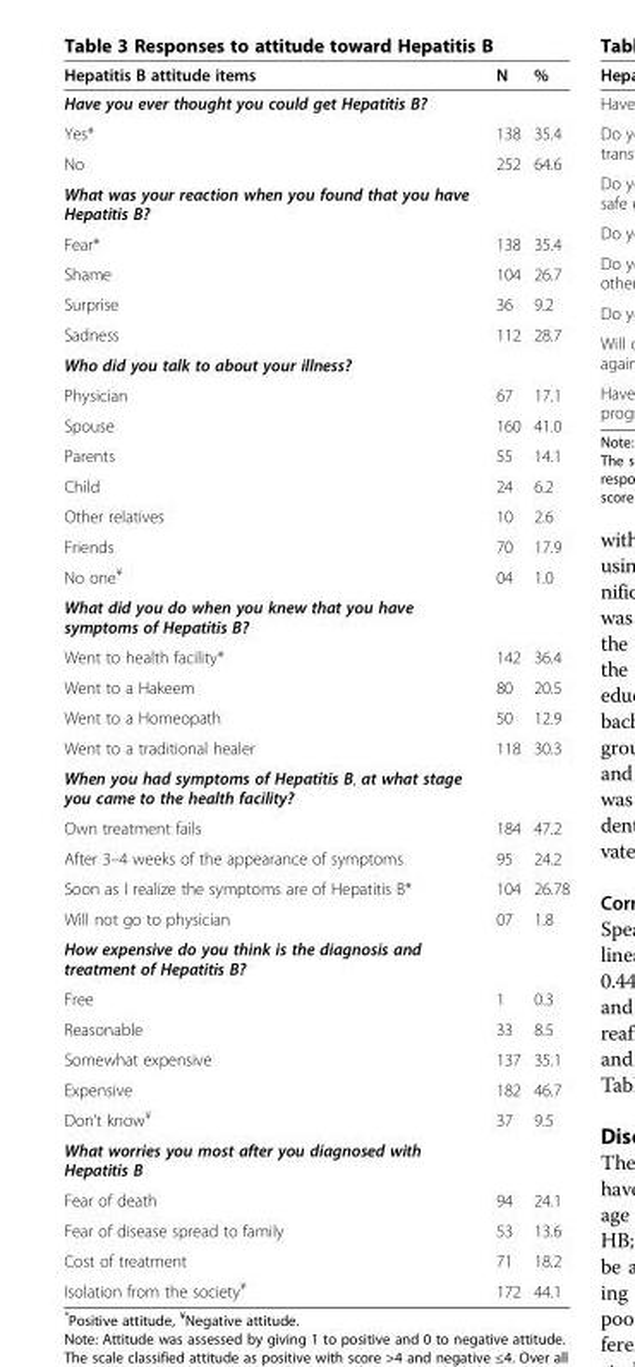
<table><thead><tr><td>Hepatitis B attitude items</td><td>N</td><td>%</td></tr></thead><tbody><tr><td colspan="3">Have you ever thought you could get Hepatitis B?</td></tr><tr><td>Yes*</td><td>138</td><td>35.4</td></tr><tr><td>No</td><td>252</td><td>64.6</td></tr><tr><td colspan="3">What was your reaction when you found that you have Hepatitis B?</td></tr><tr><td>Fear*</td><td>138</td><td>35.4</td></tr><tr><td>Shame</td><td>104</td><td>26.7</td></tr><tr><td>Surprise</td><td>36</td><td>9.2</td></tr><tr><td>Sadness</td><td>112</td><td>28.7</td></tr><tr><td colspan="3">Who did you talk to about your illness?</td></tr><tr><td>Physician</td><td>67</td><td>17.1</td></tr><tr><td>Spouse</td><td>160</td><td>41.0</td></tr><tr><td>Parents</td><td>55</td><td>14.1</td></tr><tr><td>Child</td><td>24</td><td>6.2</td></tr><tr><td>Other relatives</td><td>10</td><td>2.6</td></tr><tr><td>Friends</td><td>70</td><td>17.9</td></tr><tr><td>No one<sup>¥</sup></td><td>04</td><td>1.0</td></tr><tr><td colspan="3">What did you do when you knew that you have symptoms of Hepatitis B?</td></tr><tr><td>Went to health facility*</td><td>142</td><td>36.4</td></tr><tr><td>Went to a Hakeem</td><td>80</td><td>20.5</td></tr><tr><td>Went to a Homeopath</td><td>50</td><td>12.9</td></tr><tr><td>Went to a traditional healer</td><td>118</td><td>30.3</td></tr><tr><td colspan="3">When you had symptoms of Hepatitis B, at what stage you came to the health facility?</td></tr><tr><td>Own treatment fails</td><td>184</td><td>47.2</td></tr><tr><td>After 3–4 weeks of the appearance of symptoms</td><td>95</td><td>24.2</td></tr><tr><td>Soon as I realize the symptoms are of Hepatitis B*</td><td>104</td><td>26.78</td></tr><tr><td>Will not go to physician</td><td>07</td><td>1.8</td></tr><tr><td colspan="3">How expensive do you think is the diagnosis and treatment of Hepatitis B?</td></tr><tr><td>Free</td><td>1</td><td>0.3</td></tr><tr><td>Reasonable</td><td>33</td><td>8.5</td></tr><tr><td>Somewhat expensive</td><td>137</td><td>35.1</td></tr><tr><td>Expensive</td><td>182</td><td>46.7</td></tr><tr><td>Don’t know<sup>¥</sup></td><td>37</td><td>9.5</td></tr><tr><td colspan="3">What worries you most after you diagnosed with Hepatitis B</td></tr><tr><td>Fear of death</td><td>94</td><td>24.1</td></tr><tr><td>Fear of disease spread to family</td><td>53</td><td>13.6</td></tr><tr><td>Cost of treatment</td><td>71</td><td>18.2</td></tr><tr><td>Isolation from the society<sup>¥</sup></td><td>172</td><td>44.1</td></tr></tbody></table>